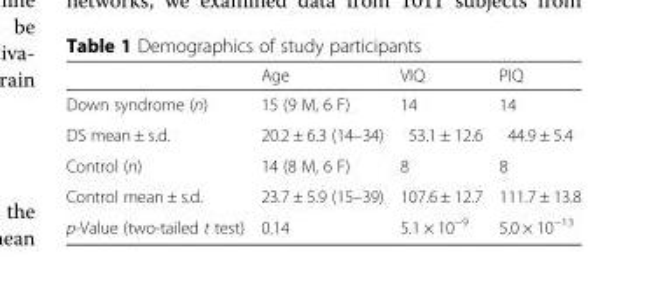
<table><thead><tr><td></td><td>Age</td><td>VIQ</td><td>PIQ</td></tr></thead><tbody><tr><td>Down syndrome (n)</td><td>15 (9 M, 6 F)</td><td>14</td><td>14</td></tr><tr><td>DS mean ± s.d.</td><td>20.2 ± 6.3 (14–34)</td><td>53.1 ± 12.6</td><td>44.9 ± 5.4</td></tr><tr><td>Control (n)</td><td>14 (8 M, 6 F)</td><td>8</td><td>8</td></tr><tr><td>Control mean ± s.d.</td><td>23.7 ± 5.9 (15–39)</td><td>107.6 ± 12.7</td><td>111.7 ± 13.8</td></tr><tr><td>p-Value (two-tailed t test)</td><td>0.14</td><td>5.1 × 10<sup>−9</sup></td><td>5.0 × 10<sup>−13</sup></td></tr></tbody></table>